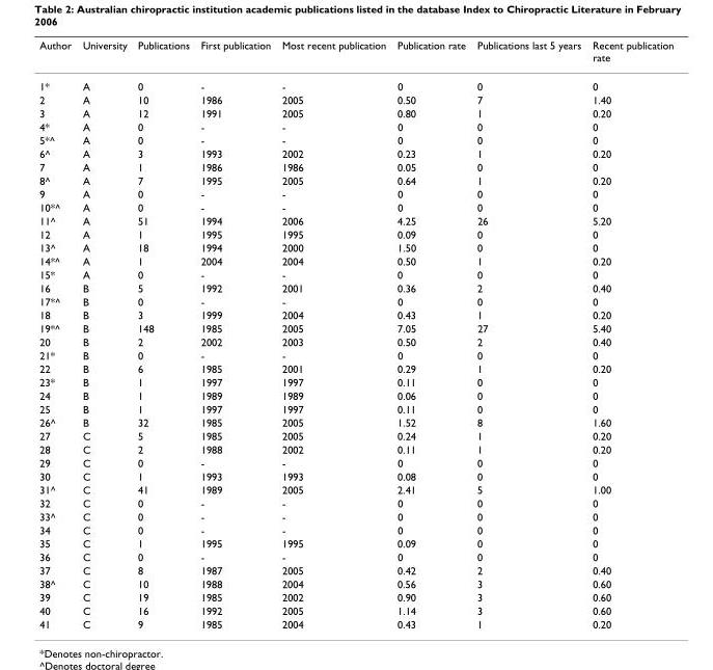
<table><thead><tr><td>Author</td><td>University</td><td>Publications</td><td>First publication</td><td>Most recent publication</td><td>Publication rate</td><td>Publications last 5 years</td><td>Recent publication rate</td></tr></thead><tbody><tr><td>1*</td><td>A</td><td>0</td><td>-</td><td>-</td><td>0</td><td>0</td><td>0</td></tr><tr><td>2</td><td>A</td><td>10</td><td>1986</td><td>2005</td><td>0.50</td><td>7</td><td>1.40</td></tr><tr><td>3</td><td>A</td><td>12</td><td>1991</td><td>2005</td><td>0.80</td><td>1</td><td>0.20</td></tr><tr><td>4*</td><td>A</td><td>0</td><td>-</td><td>-</td><td>0</td><td>0</td><td>0</td></tr><tr><td>5*^</td><td>A</td><td>0</td><td>-</td><td>-</td><td>0</td><td>0</td><td>0</td></tr><tr><td>6^</td><td>A</td><td>3</td><td>1993</td><td>2002</td><td>0.23</td><td>1</td><td>0.20</td></tr><tr><td>7</td><td>A</td><td>1</td><td>1986</td><td>1986</td><td>0.05</td><td>0</td><td>0</td></tr><tr><td>8^</td><td>A</td><td>7</td><td>1995</td><td>2005</td><td>0.64</td><td>1</td><td>0.20</td></tr><tr><td>9</td><td>A</td><td>0</td><td>-</td><td>-</td><td>0</td><td>0</td><td>0</td></tr><tr><td>10*^</td><td>A</td><td>0</td><td>-</td><td>-</td><td>0</td><td>0</td><td>0</td></tr><tr><td>11^</td><td>A</td><td>51</td><td>1994</td><td>2006</td><td>4.25</td><td>26</td><td>5.20</td></tr><tr><td>12</td><td>A</td><td>1</td><td>1995</td><td>1995</td><td>0.09</td><td>0</td><td>0</td></tr><tr><td>13^</td><td>A</td><td>18</td><td>1994</td><td>2000</td><td>1.50</td><td>0</td><td>0</td></tr><tr><td>14*^</td><td>A</td><td>1</td><td>2004</td><td>2004</td><td>0.50</td><td>1</td><td>0.20</td></tr><tr><td>15*</td><td>A</td><td>0</td><td>-</td><td>-</td><td>0</td><td>0</td><td>0</td></tr><tr><td>16</td><td>B</td><td>5</td><td>1992</td><td>2001</td><td>0.36</td><td>2</td><td>0.40</td></tr><tr><td>17*^</td><td>B</td><td>0</td><td>-</td><td>-</td><td>0</td><td>0</td><td>0</td></tr><tr><td>18</td><td>B</td><td>3</td><td>1999</td><td>2004</td><td>0.43</td><td>1</td><td>0.20</td></tr><tr><td>19*^</td><td>B</td><td>148</td><td>1985</td><td>2005</td><td>7.05</td><td>27</td><td>5.40</td></tr><tr><td>20</td><td>B</td><td>2</td><td>2002</td><td>2003</td><td>0.50</td><td>2</td><td>0.40</td></tr><tr><td>21*</td><td>B</td><td>0</td><td>-</td><td>-</td><td>0</td><td>0</td><td>0</td></tr><tr><td>22</td><td>B</td><td>6</td><td>1985</td><td>2001</td><td>0.29</td><td>1</td><td>0.20</td></tr><tr><td>23*</td><td>B</td><td>1</td><td>1997</td><td>1997</td><td>0.11</td><td>0</td><td>0</td></tr><tr><td>24</td><td>B</td><td>1</td><td>1989</td><td>1989</td><td>0.06</td><td>0</td><td>0</td></tr><tr><td>25</td><td>B</td><td>1</td><td>1997</td><td>1997</td><td>0.11</td><td>0</td><td>0</td></tr><tr><td>26^</td><td>B</td><td>32</td><td>1985</td><td>2005</td><td>1.52</td><td>8</td><td>1.60</td></tr><tr><td>27</td><td>C</td><td>5</td><td>1985</td><td>2005</td><td>0.24</td><td>1</td><td>0.20</td></tr><tr><td>28</td><td>C</td><td>2</td><td>1988</td><td>2002</td><td>0.11</td><td>1</td><td>0.20</td></tr><tr><td>29</td><td>C</td><td>0</td><td>-</td><td>-</td><td>0</td><td>0</td><td>0</td></tr><tr><td>30</td><td>C</td><td>1</td><td>1993</td><td>1993</td><td>0.08</td><td>0</td><td>0</td></tr><tr><td>31^</td><td>C</td><td>41</td><td>1989</td><td>2005</td><td>2.41</td><td>5</td><td>1.00</td></tr><tr><td>32</td><td>C</td><td>0</td><td>-</td><td>-</td><td>0</td><td>0</td><td>0</td></tr><tr><td>33^</td><td>C</td><td>0</td><td>-</td><td>-</td><td>0</td><td>0</td><td>0</td></tr><tr><td>34</td><td>C</td><td>0</td><td>-</td><td>-</td><td>0</td><td>0</td><td>0</td></tr><tr><td>35</td><td>C</td><td>1</td><td>1995</td><td>1995</td><td>0.09</td><td>0</td><td>0</td></tr><tr><td>36</td><td>C</td><td>0</td><td>-</td><td>-</td><td>0</td><td>0</td><td>0</td></tr><tr><td>37</td><td>C</td><td>8</td><td>1987</td><td>2005</td><td>0.42</td><td>2</td><td>0.40</td></tr><tr><td>38^</td><td>C</td><td>10</td><td>1988</td><td>2004</td><td>0.56</td><td>3</td><td>0.60</td></tr><tr><td>39</td><td>C</td><td>19</td><td>1985</td><td>2002</td><td>0.90</td><td>3</td><td>0.60</td></tr><tr><td>40</td><td>C</td><td>16</td><td>1992</td><td>2005</td><td>1.14</td><td>3</td><td>0.60</td></tr><tr><td>41</td><td>C</td><td>9</td><td>1985</td><td>2004</td><td>0.43</td><td>1</td><td>0.20</td></tr></tbody></table>